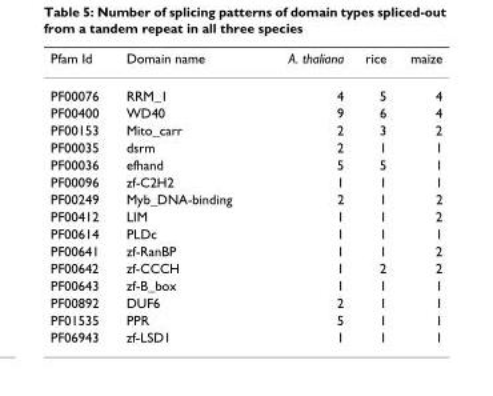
<table><thead><tr><td>Pfam Id</td><td>Domain name</td><td>A. thaliana</td><td>rice</td><td>maize</td></tr></thead><tbody><tr><td>PF00076</td><td>RRM_1</td><td>4</td><td>5</td><td>4</td></tr><tr><td>PF00400</td><td>WD40</td><td>9</td><td>6</td><td>4</td></tr><tr><td>PF00153</td><td>Mito_carr</td><td>2</td><td>3</td><td>2</td></tr><tr><td>PF00035</td><td>dsrm</td><td>2</td><td>1</td><td>1</td></tr><tr><td>PF00036</td><td>efhand</td><td>5</td><td>5</td><td>1</td></tr><tr><td>PF00096</td><td>zf-C2H2</td><td>1</td><td>1</td><td>1</td></tr><tr><td>PF00249</td><td>Myb_DNA-binding</td><td>2</td><td>1</td><td>2</td></tr><tr><td>PF00412</td><td>LIM</td><td>1</td><td>1</td><td>2</td></tr><tr><td>PF00614</td><td>PLDc</td><td>1</td><td>1</td><td>1</td></tr><tr><td>PF00641</td><td>zf-RanBP</td><td>1</td><td>1</td><td>2</td></tr><tr><td>PF00642</td><td>zf-CCCH</td><td>1</td><td>2</td><td>2</td></tr><tr><td>PF00643</td><td>zf-B_box</td><td>1</td><td>1</td><td>1</td></tr><tr><td>PF00892</td><td>DUF6</td><td>2</td><td>1</td><td>1</td></tr><tr><td>PF01535</td><td>PPR</td><td>5</td><td>1</td><td>1</td></tr><tr><td>PF06943</td><td>zf-LSD1</td><td>1</td><td>1</td><td>1</td></tr></tbody></table>